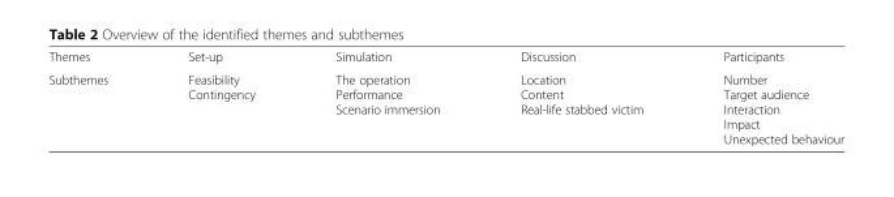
<table><tbody><tr><td>Themes</td><td>Set-up</td><td>Simulation</td><td>Discussion</td><td>Participants</td></tr><tr><td>Subthemes</td><td>Feasibility Contingency</td><td>The operation Performance Scenario immersion</td><td>Location Content Real-life stabbed victim</td><td>Number Target audience Interaction Impact Unexpected behaviour</td></tr></tbody></table>